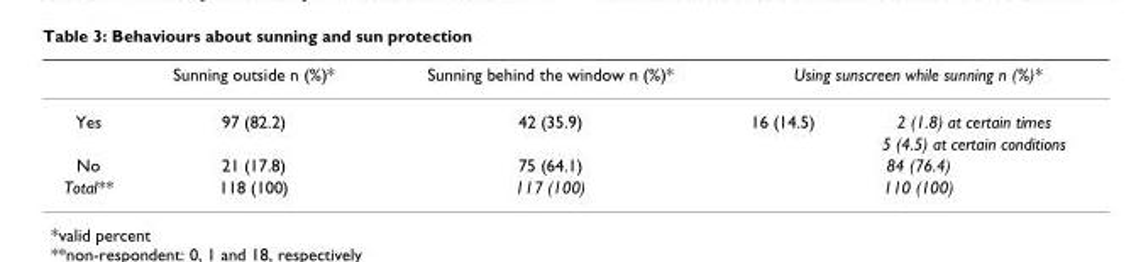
<table><thead><tr><td rowspan="2">Yes</td><td rowspan="2">Sunning outside n (%)* 97 (82.2)</td><td rowspan="2">Sunning behind the window n (%)* 42 (35.9)</td><td colspan="2">Using sunscreen while sunning n (%)*</td></tr><tr><td>16 (14.5)</td><td>2 (1.8) at certain times</td></tr></thead><tbody><tr><td></td><td></td><td></td><td></td><td>5 (4.5) at certain conditions</td></tr><tr><td>No</td><td>21 (17.8)</td><td>75 (64.1)</td><td colspan="2">84 (76.4)</td></tr><tr><td>Total**</td><td>118 (100)</td><td>117 (100)</td><td colspan="2">110 (100)</td></tr></tbody></table>